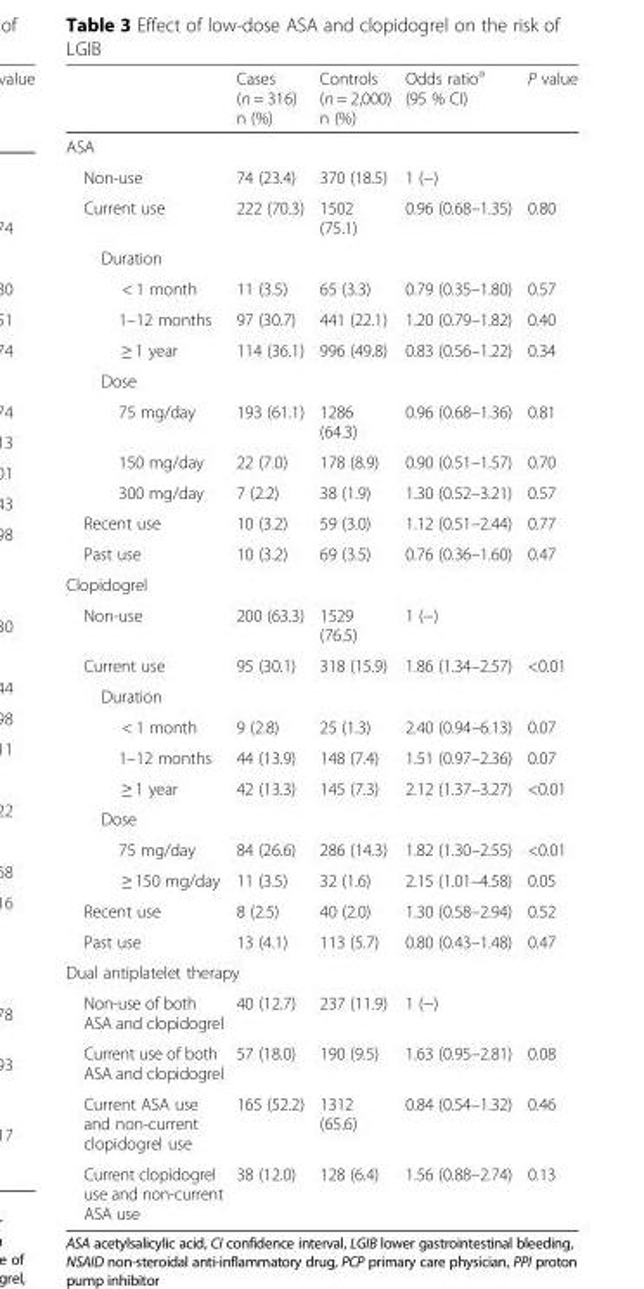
<table><thead><tr><td></td><td>Cases (n = 316) n (%)</td><td>Controls (n = 2,000) n (%)</td><td>Odds ratio<sup>a</sup> (95 % CI)</td><td>P value</td></tr></thead><tbody><tr><td colspan="5">ASA</td></tr><tr><td>Non-use</td><td>74 (23.4)</td><td>370 (18.5)</td><td>1 (−)</td><td></td></tr><tr><td>Current use</td><td>222 (70.3)</td><td>1502 (75.1)</td><td>0.96 (0.68–1.35)</td><td>0.80</td></tr><tr><td colspan="5">Duration</td></tr><tr><td>&lt; 1 month</td><td>11 (3.5)</td><td>65 (3.3)</td><td>0.79 (0.35–1.80)</td><td>0.57</td></tr><tr><td>1–12 months</td><td>97 (30.7)</td><td>441 (22.1)</td><td>1.20 (0.79–1.82)</td><td>0.40</td></tr><tr><td>≥ 1 year</td><td>114 (36.1)</td><td>996 (49.8)</td><td>0.83 (0.56–1.22)</td><td>0.34</td></tr><tr><td colspan="5">Dose</td></tr><tr><td>75 mg/day</td><td>193 (61.1)</td><td>1286 (64.3)</td><td>0.96 (0.68–1.36)</td><td>0.81</td></tr><tr><td>150 mg/day</td><td>22 (7.0)</td><td>178 (8.9)</td><td>0.90 (0.51–1.57)</td><td>0.70</td></tr><tr><td>300 mg/day</td><td>7 (2.2)</td><td>38 (1.9)</td><td>1.30 (0.52–3.21)</td><td>0.57</td></tr><tr><td>Recent use</td><td>10 (3.2)</td><td>59 (3.0)</td><td>1.12 (0.51–2.44)</td><td>0.77</td></tr><tr><td>Past use</td><td>10 (3.2)</td><td>69 (3.5)</td><td>0.76 (0.36–1.60)</td><td>0.47</td></tr><tr><td colspan="5">Clopidogrel</td></tr><tr><td>Non-use</td><td>200 (63.3)</td><td>1529 (76.5)</td><td>1 (−)</td><td></td></tr><tr><td>Current use</td><td>95 (30.1)</td><td>318 (15.9)</td><td>1.86 (1.34–2.57)</td><td>&lt;0.01</td></tr><tr><td colspan="5">Duration</td></tr><tr><td>&lt; 1 month</td><td>9 (2.8)</td><td>25 (1.3)</td><td>2.40 (0.94–6.13)</td><td>0.07</td></tr><tr><td>1–12 months</td><td>44 (13.9)</td><td>148 (7.4)</td><td>1.51 (0.97–2.36)</td><td>0.07</td></tr><tr><td>≥ 1 year</td><td>42 (13.3)</td><td>145 (7.3)</td><td>2.12 (1.37–3.27)</td><td>&lt;0.01</td></tr><tr><td colspan="5">Dose</td></tr><tr><td>75 mg/day</td><td>84 (26.6)</td><td>286 (14.3)</td><td>1.82 (1.30–2.55)</td><td>&lt;0.01</td></tr><tr><td>≥ 150 mg/day</td><td>11 (3.5)</td><td>32 (1.6)</td><td>2.15 (1.01–4.58)</td><td>0.05</td></tr><tr><td>Recent use</td><td>8 (2.5)</td><td>40 (2.0)</td><td>1.30 (0.58–2.94)</td><td>0.52</td></tr><tr><td>Past use</td><td>13 (4.1)</td><td>113 (5.7)</td><td>0.80 (0.43–1.48)</td><td>0.47</td></tr><tr><td colspan="5">Dual antiplatelet therapy</td></tr><tr><td>Non-use of both ASA and clopidogrel</td><td>40 (12.7)</td><td>237 (11.9)</td><td>1 (−)</td><td></td></tr><tr><td>Current use of both ASA and clopidogrel</td><td>57 (18.0)</td><td>190 (9.5)</td><td>1.63 (0.95–2.81)</td><td>0.08</td></tr><tr><td>Current ASA use and non-current clopidogrel use</td><td>165 (52.2)</td><td>1312 (65.6)</td><td>0.84 (0.54–1.32)</td><td>0.46</td></tr><tr><td>Current clopidogrel use and non-current ASA use</td><td>38 (12.0)</td><td>128 (6.4)</td><td>1.56 (0.88–2.74)</td><td>0.13</td></tr></tbody></table>